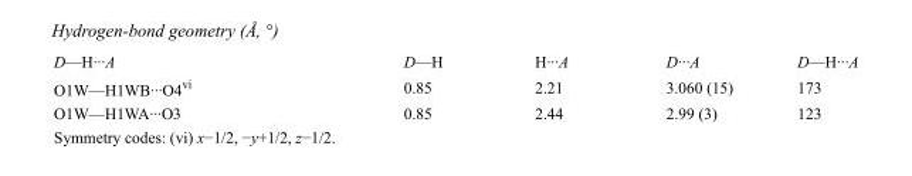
<table><tbody><tr><td>D—H···A</td><td>D—H</td><td>H···A</td><td>D···A</td><td>D—H···A</td></tr><tr><td>O1W—H1WB···O4<sup>vi</sup></td><td>0.85</td><td>2.21</td><td>3.060 (15)</td><td>173</td></tr><tr><td>O1W—H1WA···O3</td><td>0.85</td><td>2.44</td><td>2.99 (3)</td><td>123</td></tr></tbody></table>